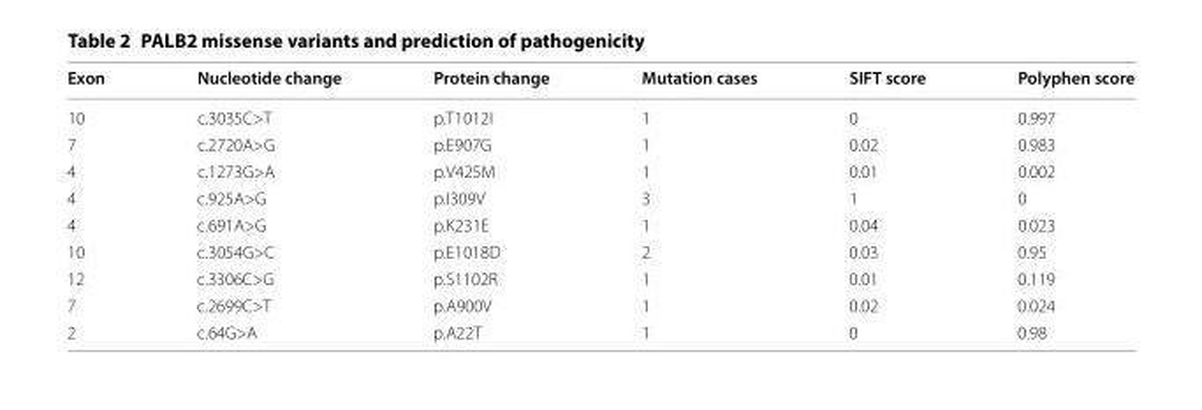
<table><thead><tr><td>Exon</td><td>Nucleotide change</td><td>Protein change</td><td>Mutation cases</td><td>SIFT score</td><td>Polyphen score</td></tr></thead><tbody><tr><td>10</td><td>c.3035C&gt;T</td><td>p.T1012I</td><td>1</td><td>0</td><td>0.997</td></tr><tr><td>7</td><td>c.2720A&gt;G</td><td>p.E907G</td><td>1</td><td>0.02</td><td>0.983</td></tr><tr><td>4</td><td>c.1273G&gt;A</td><td>p.V425M</td><td>1</td><td>0.01</td><td>0.002</td></tr><tr><td>4</td><td>c.925A&gt;G</td><td>p.I309V</td><td>3</td><td>1</td><td>0</td></tr><tr><td>4</td><td>c.691A&gt;G</td><td>p.K231E</td><td>1</td><td>0.04</td><td>0.023</td></tr><tr><td>10</td><td>c.3054G&gt;C</td><td>p.E1018D</td><td>2</td><td>0.03</td><td>0.95</td></tr><tr><td>12</td><td>c.3306C&gt;G</td><td>p.S1102R</td><td>1</td><td>0.01</td><td>0.119</td></tr><tr><td>7</td><td>c.2699C&gt;T</td><td>p.A900V</td><td>1</td><td>0.02</td><td>0.024</td></tr><tr><td>2</td><td>c.64G&gt;A</td><td>p.A22T</td><td>1</td><td>0</td><td>0.98</td></tr></tbody></table>